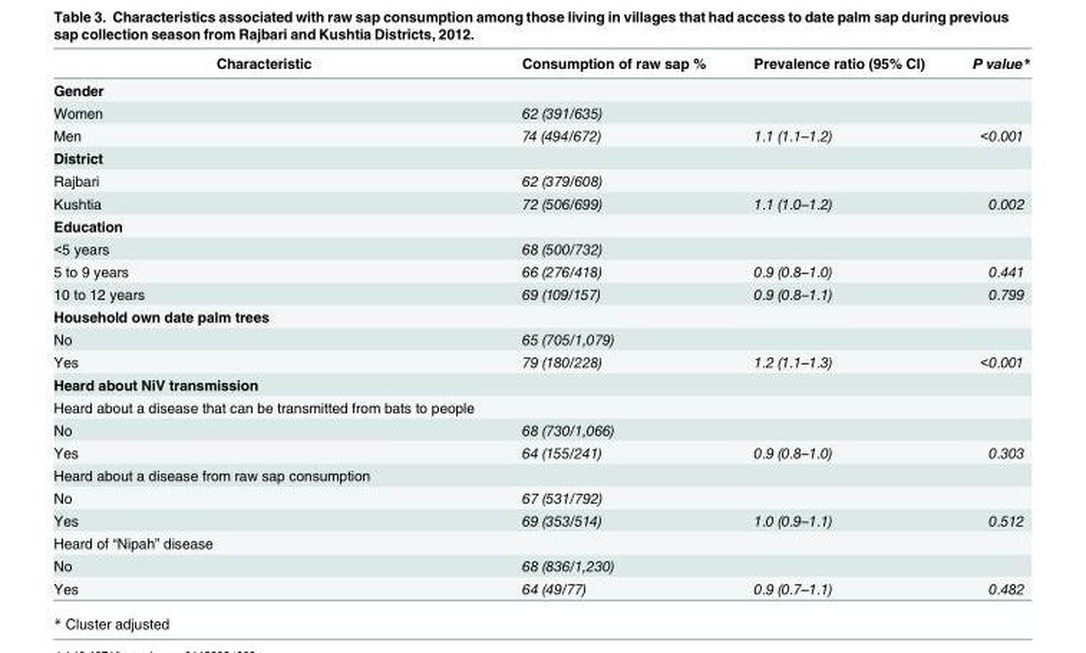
<table><thead><tr><td>Characteristic</td><td>Consumption of raw sap %</td><td>Prevalence ratio (95% Cl)</td><td>P value*</td></tr></thead><tbody><tr><td colspan="4">Gender</td></tr><tr><td>Women</td><td>62 (391/635)</td><td></td><td></td></tr><tr><td>Men</td><td>74 (494/672)</td><td>1.1 (1.1–1.2)</td><td>&lt;0.001</td></tr><tr><td colspan="4">District</td></tr><tr><td>Rajbari</td><td>62 (379/608)</td><td></td><td></td></tr><tr><td>Kushtia</td><td>72 (506/699)</td><td>1.1 (1.0–1.2)</td><td>0.002</td></tr><tr><td colspan="4">Education</td></tr><tr><td>&lt;5 years</td><td>68 (500/732)</td><td></td><td></td></tr><tr><td>5 to 9 years</td><td>66 (276/418)</td><td>0.9 (0.8–1.0)</td><td>0.441</td></tr><tr><td>10 to 12 years</td><td>69 (109/157)</td><td>0.9 (0.8–1.1)</td><td>0.799</td></tr><tr><td colspan="4">Household own date palm trees</td></tr><tr><td>No</td><td>65 (705/1,079)</td><td></td><td></td></tr><tr><td>Yes</td><td>79 (180/228)</td><td>1.2 (1.1–1.3)</td><td>&lt;0.001</td></tr><tr><td colspan="4">Heard about NiV transmission</td></tr><tr><td colspan="4">Heard about a disease that can be transmitted from bats to people</td></tr><tr><td>No</td><td>68 (730/1,066)</td><td></td><td></td></tr><tr><td>Yes</td><td>64 (155/241)</td><td>0.9 (0.8–1.0)</td><td>0.303</td></tr><tr><td colspan="4">Heard about a disease from raw sap consumption</td></tr><tr><td>No</td><td>67 (531/792)</td><td></td><td></td></tr><tr><td>Yes</td><td>69 (353/514)</td><td>1.0 (0.9–1.1)</td><td>0.512</td></tr><tr><td colspan="4">Heard of “Nipah” disease</td></tr><tr><td>No</td><td>68 (836/1,230)</td><td></td><td></td></tr><tr><td>Yes</td><td>64 (49/77)</td><td>0.9 (0.7–1.1)</td><td>0.482</td></tr></tbody></table>